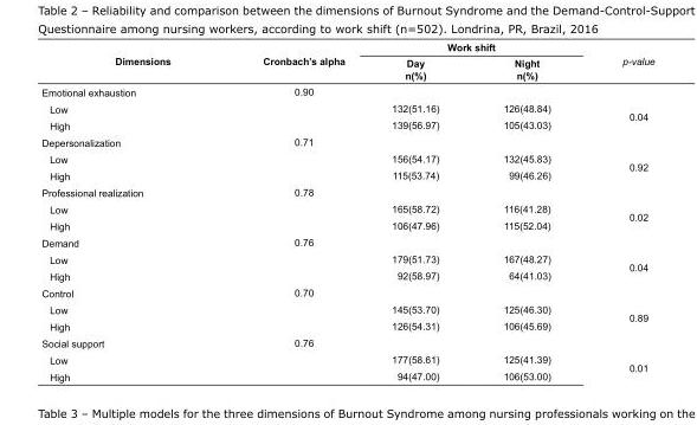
<table><tbody><tr><td rowspan="2">Dimensions</td><td rowspan="2">Cronbach’s alpha</td><td colspan="2">Work shift</td><td rowspan="2">p-value</td></tr><tr><td>Day n(%)</td><td>Night n(%)</td></tr><tr><td>Emotional exhaustion</td><td>0.90</td><td></td><td></td><td></td></tr><tr><td>Low</td><td rowspan="2"></td><td>132(51.16)</td><td>126(48.84)</td><td rowspan="2">0.04</td></tr><tr><td>High</td><td>139(56.97)</td><td>105(43.03)</td></tr><tr><td>Depersonalization</td><td>0.71</td><td></td><td></td><td></td></tr><tr><td>Low</td><td rowspan="2"></td><td>156(54.17)</td><td>132(45.83)</td><td rowspan="2">0.92</td></tr><tr><td>High</td><td>115(53.74)</td><td>99(46.26)</td></tr><tr><td>Professional realization</td><td>0.78</td><td></td><td></td><td></td></tr><tr><td>Low</td><td></td><td>165(58.72)</td><td>116(41.28)</td><td rowspan="2">0.02</td></tr><tr><td>High</td><td></td><td>106(47.96)</td><td>115(52.04)</td></tr><tr><td>Demand</td><td>0.76</td><td></td><td></td><td></td></tr><tr><td>Low</td><td></td><td>179(51.73)</td><td>167(48.27)</td><td rowspan="2">0.04</td></tr><tr><td>High</td><td></td><td>92(58.97)</td><td>64(41.03)</td></tr><tr><td>Control</td><td>0.70</td><td></td><td></td><td></td></tr><tr><td>Low</td><td></td><td>145(53.70)</td><td>125(46.30)</td><td rowspan="2">0.89</td></tr><tr><td>High</td><td></td><td>126(54.31)</td><td>106(45.69)</td></tr><tr><td>Social support</td><td>0.76</td><td></td><td></td><td></td></tr><tr><td>Low</td><td></td><td>177(58.61)</td><td>125(41.39)</td><td rowspan="2">0.01</td></tr><tr><td>High</td><td></td><td>94(47.00)</td><td>106(53.00)</td></tr></tbody></table>